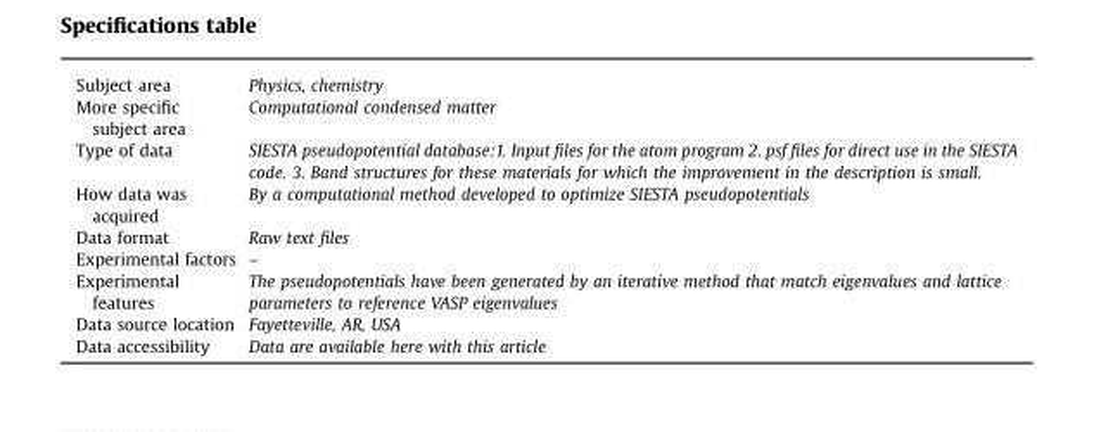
<table><tbody><tr><td>Subject area</td><td>Physics, chemistry</td></tr><tr><td>More specific subject area</td><td>Computational condensed matter</td></tr><tr><td>Type of data</td><td>SIESTA pseudopotential database:1. Input files for the atom program 2. psf files for direct use in the SIESTA code. 3. Band structures for these materials for which the improvement in the description is small.</td></tr><tr><td>How data was acquired</td><td>By a computational method developed to optimize SIESTA pseudopotentials</td></tr><tr><td>Data format</td><td>Raw text files</td></tr><tr><td>Experimental factors</td><td>–</td></tr><tr><td>Experimental features</td><td>The pseudopotentials have been generated by an iterative method that match eigenvalues and lattice parameters to reference VASP eigenvalues</td></tr><tr><td>Data source location</td><td>Fayetteville, AR, USA</td></tr><tr><td>Data accessibility</td><td>Data are available here with this article</td></tr></tbody></table>